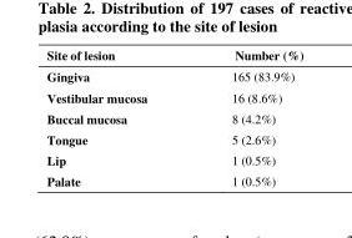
<table><tbody><tr><td>Site of lesion</td><td>Number (%)</td></tr><tr><td>Gingiva</td><td>165 (83.9%)</td></tr><tr><td>Vestibular mucosa</td><td>16 (8.6%)</td></tr><tr><td>Buccal mucosa</td><td>8 (4.2%)</td></tr><tr><td>Tongue</td><td>5 (2.6%)</td></tr><tr><td>Lip</td><td>1 (0.5%)</td></tr><tr><td>Palate</td><td>1 (0.5%)</td></tr></tbody></table>